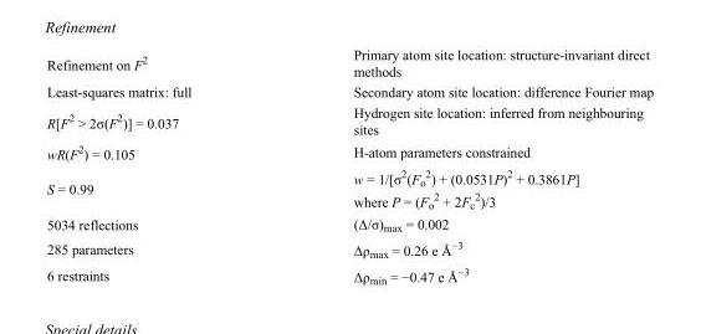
<table><tbody><tr><td>Refinement on F<sup>2</sup></td><td>Primary atom site location: structure-invariant direct methods</td></tr><tr><td>Least-squares matrix: full</td><td>Secondary atom site location: difference Fourier map</td></tr><tr><td>R[F<sup>2</sup> &gt; 2σ(F<sup>2</sup>)] = 0.037</td><td>Hydrogen site location: inferred from neighbouring sites</td></tr><tr><td>wR(F<sup>2</sup>) = 0.105</td><td>H-atom parameters constrained</td></tr><tr><td>S = 0.99</td><td>w = 1/[σ<sup>2</sup>(F<sub>o</sub> <sup>2</sup>) + (0.0531P)<sup>2</sup> + 0.3861P] where P = (F<sub>o</sub> <sup>2</sup> + 2F<sub>c</sub> <sup>2</sup>)/3</td></tr><tr><td>5034 reflections</td><td>(Δ/σ)<sub>max</sub> = 0.002</td></tr><tr><td>285 parameters</td><td>Δρ<sub>max</sub> = 0.26 e Å<sup>−3</sup></td></tr><tr><td>6 restraints</td><td>Δρ<sub>min</sub> = −0.47 e Å<sup>−3</sup></td></tr></tbody></table>